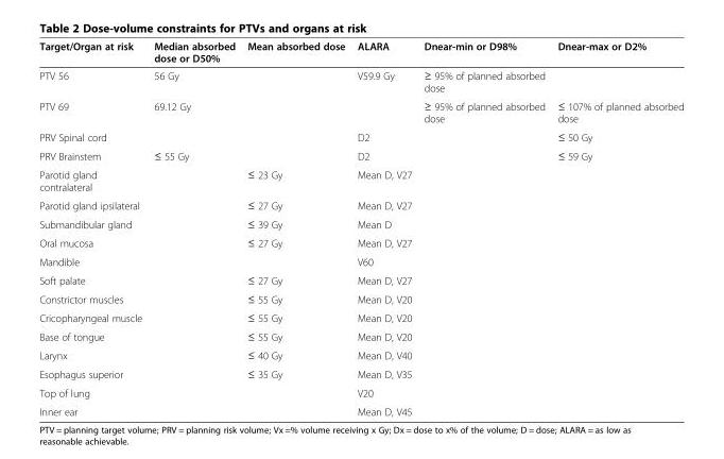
<table><thead><tr><td>Target/Organ at risk</td><td>Median absorbed dose or D50%</td><td>Mean absorbed dose</td><td>ALARA</td><td>Dnear-min or D98%</td><td>Dnear-max or D2%</td></tr></thead><tbody><tr><td>PTV 56</td><td>56 Gy</td><td></td><td>V59.9 Gy</td><td>≥ 95% of planned absorbed dose</td><td></td></tr><tr><td>PTV 69</td><td>69.12 Gy</td><td></td><td></td><td>≥ 95% of planned absorbed dose</td><td>≤ 107% of planned absorbed dose</td></tr><tr><td>PRV Spinal cord</td><td></td><td></td><td>D2</td><td></td><td>≤ 50 Gy</td></tr><tr><td>PRV Brainstem</td><td>≤ 55 Gy</td><td></td><td>D2</td><td></td><td>≤ 59 Gy</td></tr><tr><td>Parotid gland contralateral</td><td></td><td>≤ 23 Gy</td><td>Mean D, V27</td><td></td><td></td></tr><tr><td>Parotid gland ipsilateral</td><td></td><td>≤ 27 Gy</td><td>Mean D, V27</td><td></td><td></td></tr><tr><td>Submandibular gland</td><td></td><td>≤ 39 Gy</td><td>Mean D</td><td></td><td></td></tr><tr><td>Oral mucosa</td><td></td><td>≤ 27 Gy</td><td>Mean D, V27</td><td></td><td></td></tr><tr><td>Mandible</td><td></td><td></td><td>V60</td><td></td><td></td></tr><tr><td>Soft palate</td><td></td><td>≤ 27 Gy</td><td>Mean D, V27</td><td></td><td></td></tr><tr><td>Constrictor muscles</td><td></td><td>≤ 55 Gy</td><td>Mean D, V20</td><td></td><td></td></tr><tr><td>Cricopharyngeal muscle</td><td></td><td>≤ 55 Gy</td><td>Mean D, V20</td><td></td><td></td></tr><tr><td>Base of tongue</td><td></td><td>≤ 55 Gy</td><td>Mean D, V20</td><td></td><td></td></tr><tr><td>Larynx</td><td></td><td>≤ 40 Gy</td><td>Mean D, V40</td><td></td><td></td></tr><tr><td>Esophagus superior</td><td></td><td>≤ 35 Gy</td><td>Mean D, V35</td><td></td><td></td></tr><tr><td>Top of lung</td><td></td><td></td><td>V20</td><td></td><td></td></tr><tr><td>Inner ear</td><td></td><td></td><td>Mean D, V45</td><td></td><td></td></tr></tbody></table>